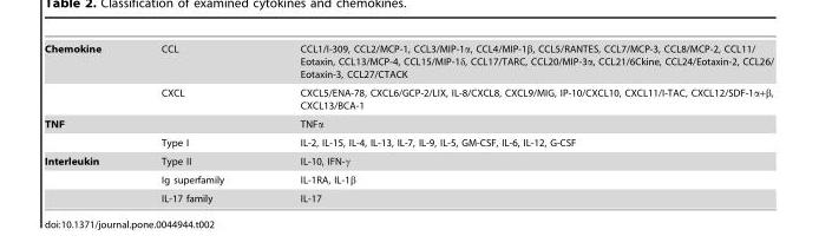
<table><tbody><tr><td rowspan="2">Chemokine</td><td>CCL</td><td>CCL1/I-309, CCL2/MCP-1, CCL3/MIP-1α, CCL4/MIP-1β, CCL5/RANTES, CCL7/MCP-3, CCL8/MCP-2, CCL11/ Eotaxin, CCL13/MCP-4, CCL15/MIP-1δ, CCL17/TARC, CCL20/MIP-3α, CCL21/6Ckine, CCL24/Eotaxin-2, CCL26/ Eotaxin-3, CCL27/CTACK</td></tr><tr><td>CXCL</td><td>CXCL5/ENA-78, CXCL6/GCP-2/LIX, IL-8/CXCL8, CXCL9/MIG, IP-10/CXCL10, CXCL11/I-TAC, CXCL12/SDF-1α+β, CXCL13/BCA-1</td></tr><tr><td rowspan="2">TNF</td><td></td><td>TNFα</td></tr><tr><td>Type I</td><td>IL-2, IL-15, IL-4, IL-13, IL-7, IL-9, IL-5, GM-CSF, IL-6, IL-12, G-CSF</td></tr><tr><td rowspan="3">Interleukin</td><td>Type II</td><td>IL-10, IFN-γ</td></tr><tr><td>Ig superfamily</td><td>IL-1RA, IL-1β</td></tr><tr><td>IL-17 family</td><td>IL-17</td></tr></tbody></table>